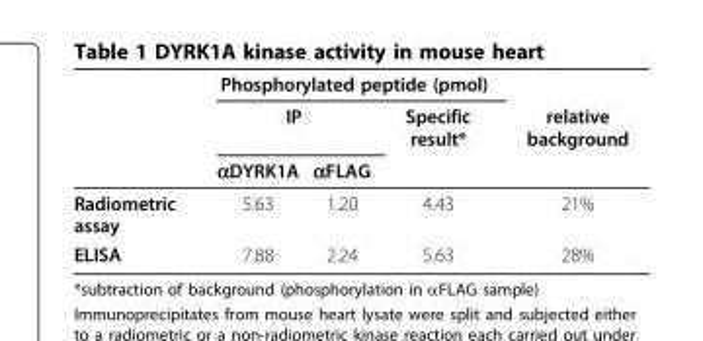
<table><thead><tr><td rowspan="3"></td><td colspan="3">Phosphorylated peptide (pmol)</td><td rowspan="3">relative background</td></tr><tr><td colspan="2">IP</td><td rowspan="2">Specific result*</td></tr><tr><td>αDYRK1A</td><td>αFLAG</td></tr></thead><tbody><tr><td>Radiometric assay</td><td>5.63</td><td>1.20</td><td>4.43</td><td>21%</td></tr><tr><td>ELISA</td><td>7.88</td><td>2.24</td><td>5.63</td><td>28%</td></tr></tbody></table>